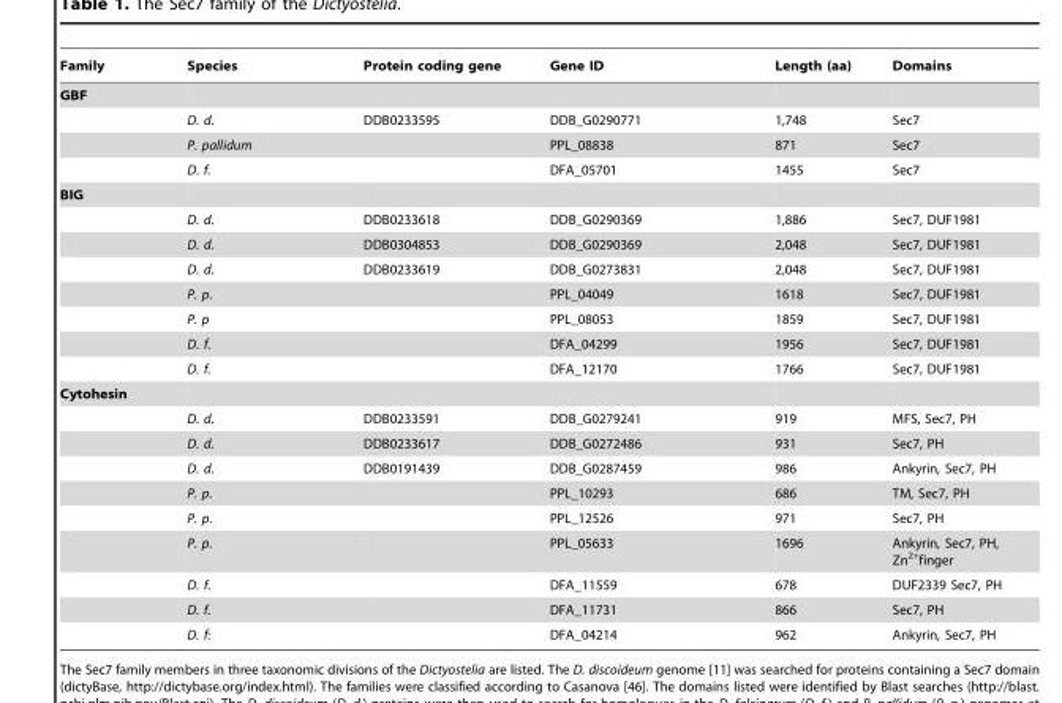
<table><thead><tr><td>Family</td><td>Species</td><td>Protein coding gene</td><td>Gene ID</td><td>Length (aa)</td><td>Domains</td></tr></thead><tbody><tr><td colspan="6">GBF</td></tr><tr><td></td><td>D. d.</td><td>DDB0233595</td><td>DDB_G0290771</td><td>1,748</td><td>Sec7</td></tr><tr><td></td><td>P. pallidum</td><td></td><td>PPL_08838</td><td>871</td><td>Sec7</td></tr><tr><td></td><td>D. f.</td><td></td><td>DFA_05701</td><td>1455</td><td>Sec7</td></tr><tr><td colspan="6">BIG</td></tr><tr><td></td><td>D. d.</td><td>DDB0233618</td><td>DDB_G0290369</td><td>1,886</td><td>Sec7, DUF1981</td></tr><tr><td></td><td>D. d.</td><td>DDB0304853</td><td>DDB_G0290369</td><td>2,048</td><td>Sec7, DUF1981</td></tr><tr><td></td><td>D. d.</td><td>DDB0233619</td><td>DDB_G0273831</td><td>2,048</td><td>Sec7, DUF1981</td></tr><tr><td></td><td>P. p.</td><td></td><td>PPL_04049</td><td>1618</td><td>Sec7, DUF1981</td></tr><tr><td></td><td>P. p</td><td></td><td>PPL_08053</td><td>1859</td><td>Sec7, DUF1981</td></tr><tr><td></td><td>D. f.</td><td></td><td>DFA_04299</td><td>1956</td><td>Sec7, DUF1981</td></tr><tr><td></td><td>D. f.</td><td></td><td>DFA_12170</td><td>1766</td><td>Sec7, DUF1981</td></tr><tr><td colspan="6">Cytohesin</td></tr><tr><td></td><td>D. d.</td><td>DDB0233591</td><td>DDB_G0279241</td><td>919</td><td>MFS, Sec7, PH</td></tr><tr><td></td><td>D. d.</td><td>DDB0233617</td><td>DDB_G0272486</td><td>931</td><td>Sec7, PH</td></tr><tr><td></td><td>D. d.</td><td>DDB0191439</td><td>DDB_G0287459</td><td>986</td><td>Ankyrin, Sec7, PH</td></tr><tr><td></td><td>P. p.</td><td></td><td>PPL_10293</td><td>686</td><td>TM, Sec7, PH</td></tr><tr><td></td><td>P. p.</td><td></td><td>PPL_12526</td><td>971</td><td>Sec7, PH</td></tr><tr><td></td><td>P. p.</td><td></td><td>PPL_05633</td><td>1696</td><td>Ankyrin, Sec7, PH, Zn<sup>2+</sup>finger</td></tr><tr><td></td><td>D. f.</td><td></td><td>DFA_11559</td><td>678</td><td>DUF2339 Sec7, PH</td></tr><tr><td></td><td>D. f.</td><td></td><td>DFA_11731</td><td>866</td><td>Sec7, PH</td></tr><tr><td></td><td>D. f:</td><td></td><td>DFA_04214</td><td>962</td><td>Ankyrin, Sec7, PH</td></tr></tbody></table>